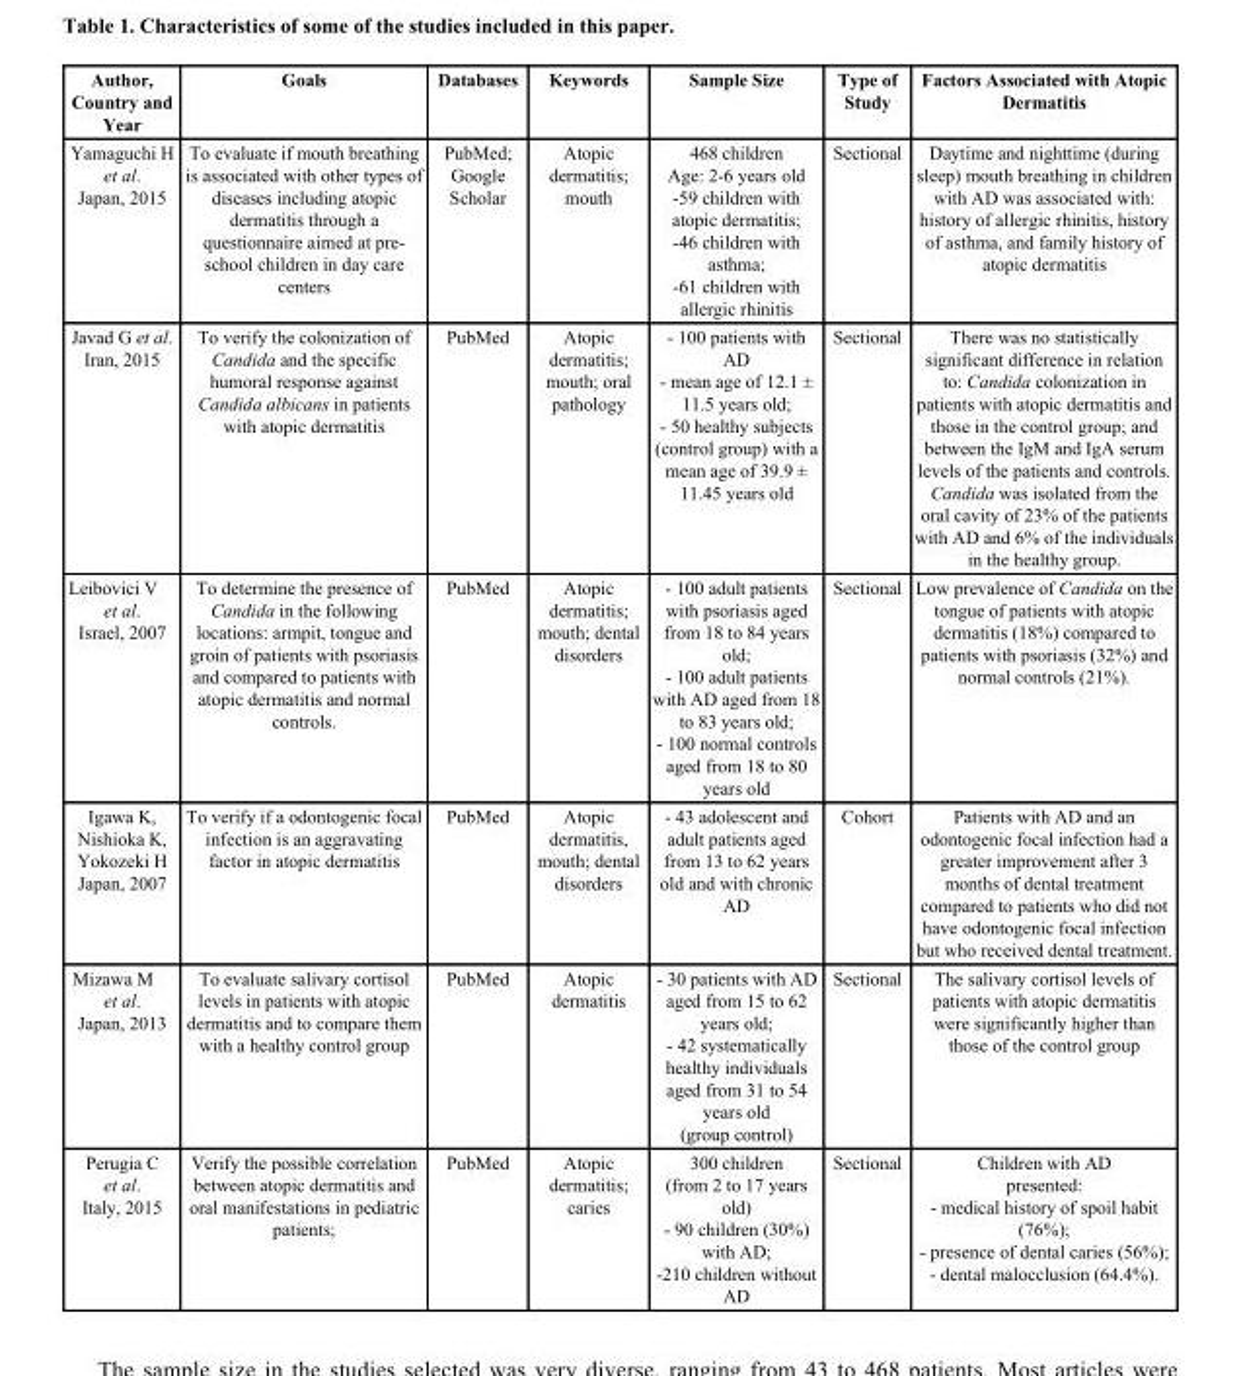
<table><thead><tr><td>Author, Country and Year</td><td>Goals</td><td>Databases</td><td>Keywords</td><td>Sample Size</td><td>Type of Study</td><td>Factors Associated with Atopic Dermatitis</td></tr></thead><tbody><tr><td>Yamaguchi H et al. Japan, 2015</td><td>To evaluate if mouth breathing is associated with other types of diseases including atopic dermatitis through a questionnaire aimed at pre- school children in day care centers</td><td>PubMed; Google Scholar</td><td>Atopic dermatitis; mouth</td><td>468 children Age: 2-6 years old -59 children with atopic dermatitis; -46 children with asthma; -61 children with allergic rhinitis</td><td>Sectional</td><td>Daytime and nighttime (during sleep) mouth breathing in children with AD was associated with: history of allergic rhinitis, history of asthma, and family history of atopic dermatitis</td></tr><tr><td>Javad G et al. Iran, 2015</td><td>To verify the colonization of Candida and the specific humoral response against Candida albicans in patients with atopic dermatitis</td><td>PubMed</td><td>Atopic dermatitis; mouth; oral pathology</td><td>- 100 patients with AD - mean age of 12.1 ± 11.5 years old; - 50 healthy subjects (control group) with a mean age of 39.9 ± 11.45 years old</td><td>Sectional</td><td>There was no statistically significant difference in relation to: Candida colonization in patients with atopic dermatitis and those in the control group; and between the IgM and IgA serum levels of the patients and controls. Candida was isolated from the oral cavity of 23% of the patients with AD and 6% of the individuals in the healthy group.</td></tr><tr><td>Leibovici V et al. Israel, 2007</td><td>To determine the presence of Candida in the following locations: armpit, tongue and groin of patients with psoriasis and compared to patients with atopic dermatitis and normal controls.</td><td>PubMed</td><td>Atopic dermatitis; mouth; dental disorders</td><td>- 100 adult patients with psoriasis aged from 18 to 84 years old; - 100 adult patients with AD aged from 18 to 83 years old; - 100 normal controls aged from 18 to 80 years old</td><td>Sectional</td><td>Low prevalence of Candida on the tongue of patients with atopic dermatitis (18%) compared to patients with psoriasis (32%) and normal controls (21%).</td></tr><tr><td>Igawa K, Nishioka K, Yokozeki H Japan, 2007</td><td>To verify if a odontogenic focal infection is an aggravating factor in atopic dermatitis</td><td>PubMed</td><td>Atopic dermatitis, mouth; dental disorders</td><td>- 43 adolescent and adult patients aged from 13 to 62 years old and with chronic AD</td><td>Cohort</td><td>Patients with AD and an odontogenic focal infection had a greater improvement after 3 months of dental treatment compared to patients who did not have odontogenic focal infection but who received dental treatment.</td></tr><tr><td>Mizawa M et al. Japan, 2013</td><td>To evaluate salivary cortisol levels in patients with atopic dermatitis and to compare them with a healthy control group</td><td>PubMed</td><td>Atopic dermatitis</td><td>- 30 patients with AD aged from 15 to 62 years old; - 42 systematically healthy individuals aged from 31 to 54 years old (group control)</td><td>Sectional</td><td>The salivary cortisol levels of patients with atopic dermatitis were significantly higher than those of the control group</td></tr><tr><td>Perugia C et al. Italy, 2015</td><td>Verify the possible correlation between atopic dermatitis and oral manifestations in pediatric patients;</td><td>PubMed</td><td>Atopic dermatitis; caries</td><td>300 children (from 2 to 17 years old) - 90 children (30%) with AD; -210 children without AD</td><td>Sectional</td><td>Children with AD presented: - medical history of spoil habit (76%); - presence of dental caries (56%); - dental malocclusion (64.4%).</td></tr></tbody></table>